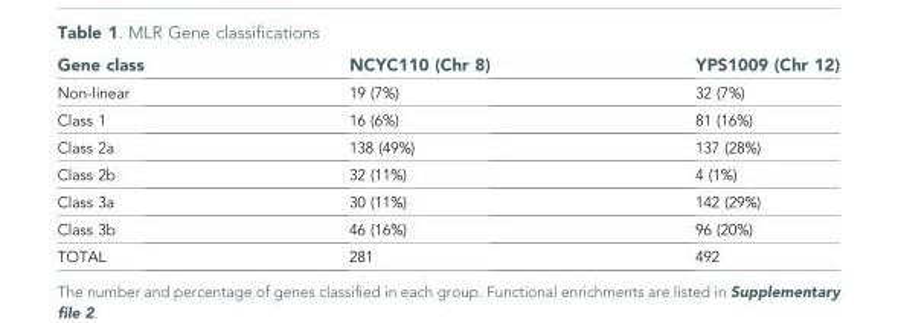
<table><thead><tr><td>Gene class</td><td>NCYC110 (Chr 8)</td><td>YPS1009 (Chr 12)</td></tr></thead><tbody><tr><td>Non-linear</td><td>19 (7%)</td><td>32 (7%)</td></tr><tr><td>Class 1</td><td>16 (6%)</td><td>81 (16%)</td></tr><tr><td>Class 2a</td><td>138 (49%)</td><td>137 (28%)</td></tr><tr><td>Class 2b</td><td>32 (11%)</td><td>4 (1%)</td></tr><tr><td>Class 3a</td><td>30 (11%)</td><td>142 (29%)</td></tr><tr><td>Class 3b</td><td>46 (16%)</td><td>96 (20%)</td></tr><tr><td>TOTAL</td><td>281</td><td>492</td></tr></tbody></table>